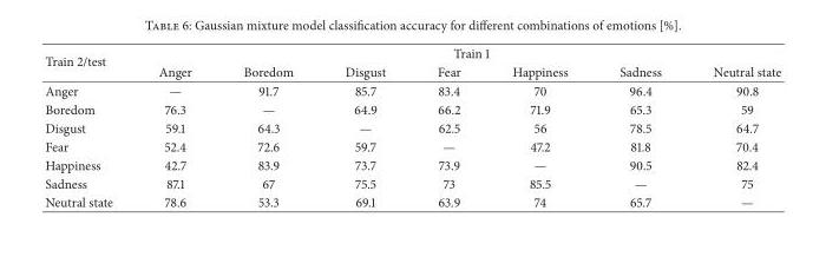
<table><thead><tr><td rowspan="2">Train 2/test</td><td colspan="7">Train 1</td></tr><tr><td>Anger</td><td>Boredom</td><td>Disgust</td><td>Fear</td><td>Happiness</td><td>Sadness</td><td>Neutral state</td></tr></thead><tbody><tr><td>Anger</td><td>—</td><td>91.7</td><td>85.7</td><td>83.4</td><td>70</td><td>96.4</td><td>90.8</td></tr><tr><td>Boredom</td><td>76.3</td><td>—</td><td>64.9</td><td>66.2</td><td>71.9</td><td>65.3</td><td>59</td></tr><tr><td>Disgust</td><td>59.1</td><td>64.3</td><td>—</td><td>62.5</td><td>56</td><td>78.5</td><td>64.7</td></tr><tr><td>Fear</td><td>52.4</td><td>72.6</td><td>59.7</td><td>—</td><td>47.2</td><td>81.8</td><td>70.4</td></tr><tr><td>Happiness</td><td>42.7</td><td>83.9</td><td>73.7</td><td>73.9</td><td>—</td><td>90.5</td><td>82.4</td></tr><tr><td>Sadness</td><td>87.1</td><td>67</td><td>75.5</td><td>73</td><td>85.5</td><td>—</td><td>75</td></tr><tr><td>Neutral state</td><td>78.6</td><td>53.3</td><td>69.1</td><td>63.9</td><td>74</td><td>65.7</td><td>—</td></tr></tbody></table>